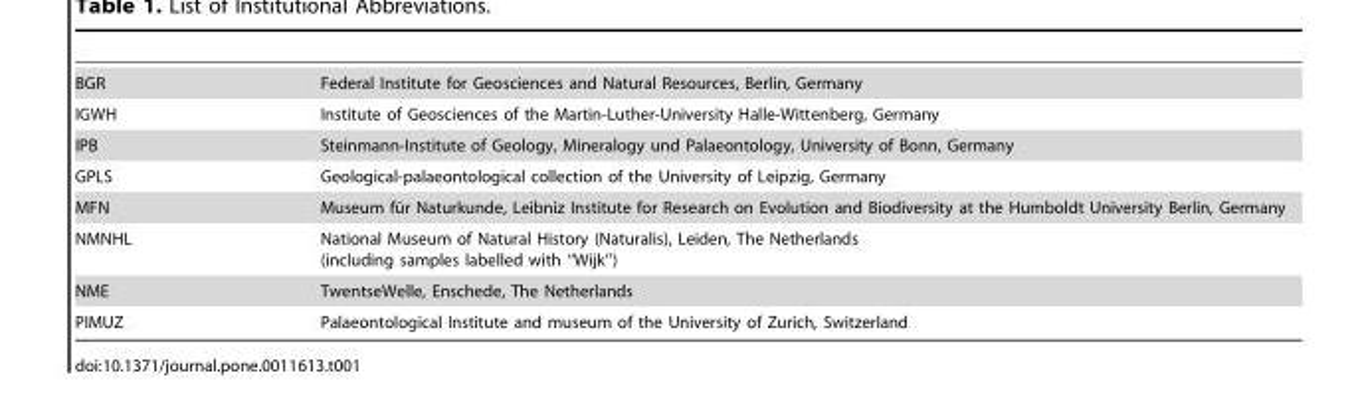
<table><tbody><tr><td>BGR</td><td>Federal Institute for Geosciences and Natural Resources, Berlin, Germany</td></tr><tr><td>IGWH</td><td>Institute of Geosciences of the Martin-Luther-University Halle-Wittenberg, Germany</td></tr><tr><td>IPB</td><td>Steinmann-Institute of Geology, Mineralogy und Palaeontology, University of Bonn, Germany</td></tr><tr><td>GPLS</td><td>Geological-palaeontological collection of the University of Leipzig, Germany</td></tr><tr><td>MFN</td><td>Museum fu¨r Naturkunde, Leibniz Institute for Research on Evolution and Biodiversity at the Humboldt University Berlin, Germany</td></tr><tr><td>NMNHL</td><td>National Museum of Natural History (Naturalis), Leiden, The Netherlands (including samples labelled with ‘‘Wijk’’)</td></tr><tr><td>NME</td><td>TwentseWelle, Enschede, The Netherlands</td></tr><tr><td>PIMUZ</td><td>Palaeontological Institute and museum of the University of Zurich, Switzerland</td></tr></tbody></table>